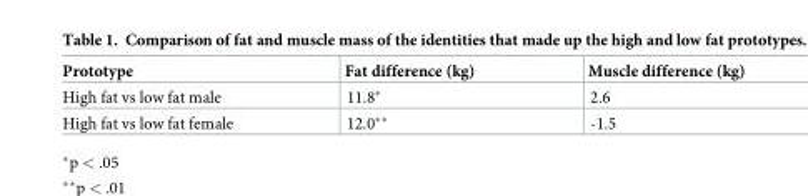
<table><thead><tr><td>Prototype</td><td>Fat difference (kg)</td><td>Muscle difference (kg)</td></tr></thead><tbody><tr><td>High fat vs low fat male</td><td>11.8*</td><td>2.6</td></tr><tr><td>High fat vs low fat female</td><td>12.0**</td><td>-1.5</td></tr></tbody></table>